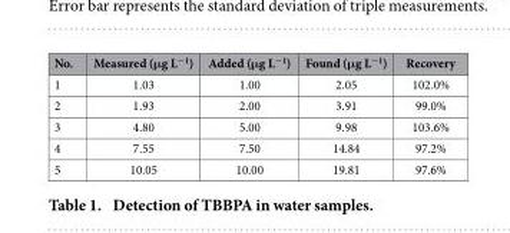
<table><thead><tr><td>No.</td><td>Measured (μg L<sup>−1</sup>)</td><td>Added (μg L<sup>−1</sup>)</td><td>Found (μg L<sup>−1</sup>)</td><td>Recovery</td></tr></thead><tbody><tr><td>1</td><td>1.03</td><td>1.00</td><td>2.05</td><td>102.0%</td></tr><tr><td>2</td><td>1.93</td><td>2.00</td><td>3.91</td><td>99.0%</td></tr><tr><td>3</td><td>4.80</td><td>5.00</td><td>9.98</td><td>103.6%</td></tr><tr><td>4</td><td>7.55</td><td>7.50</td><td>14.84</td><td>97.2%</td></tr><tr><td>5</td><td>10.05</td><td>10.00</td><td>19.81</td><td>97.6%</td></tr></tbody></table>